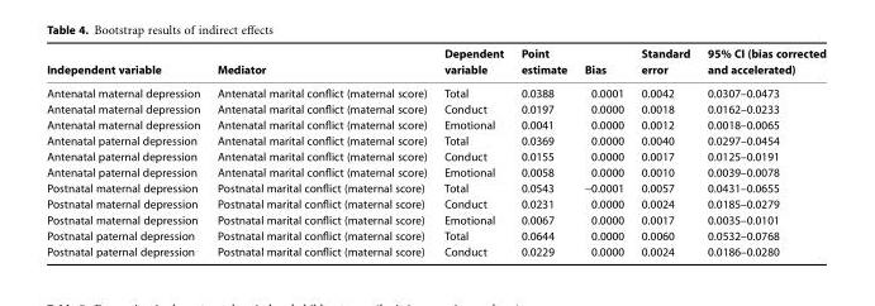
<table><thead><tr><td>Independent variable</td><td>Mediator</td><td>Dependent variable</td><td>Point estimate</td><td>Bias</td><td>Standard error</td><td>95% CI (bias corrected and accelerated)</td></tr></thead><tbody><tr><td>Antenatal maternal depression</td><td>Antenatal marital conflict (maternal score)</td><td>Total</td><td>0.0388</td><td>0.0001</td><td>0.0042</td><td>0.0307–0.0473</td></tr><tr><td>Antenatal maternal depression</td><td>Antenatal marital conflict (maternal score)</td><td>Conduct</td><td>0.0197</td><td>0.0000</td><td>0.0018</td><td>0.0162–0.0233</td></tr><tr><td>Antenatal maternal depression</td><td>Antenatal marital conflict (maternal score)</td><td>Emotional</td><td>0.0041</td><td>0.0000</td><td>0.0012</td><td>0.0018–0.0065</td></tr><tr><td>Antenatal paternal depression</td><td>Antenatal marital conflict (maternal score)</td><td>Total</td><td>0.0369</td><td>0.0000</td><td>0.0040</td><td>0.0297–0.0454</td></tr><tr><td>Antenatal paternal depression</td><td>Antenatal marital conflict (maternal score)</td><td>Conduct</td><td>0.0155</td><td>0.0000</td><td>0.0017</td><td>0.0125–0.0191</td></tr><tr><td>Antenatal paternal depression</td><td>Antenatal marital conflict (maternal score)</td><td>Emotional</td><td>0.0058</td><td>0.0000</td><td>0.0010</td><td>0.0039–0.0078</td></tr><tr><td>Postnatal maternal depression</td><td>Postnatal marital conflict (maternal score)</td><td>Total</td><td>0.0543</td><td>-0.0001</td><td>0.0057</td><td>0.0431–0.0655</td></tr><tr><td>Postnatal maternal depression</td><td>Postnatal marital conflict (maternal score)</td><td>Conduct</td><td>0.0231</td><td>0.0000</td><td>0.0024</td><td>0.0185–0.0279</td></tr><tr><td>Postnatal maternal depression</td><td>Postnatal marital conflict (maternal score)</td><td>Emotional</td><td>0.0067</td><td>0.0000</td><td>0.0017</td><td>0.0035–0.0101</td></tr><tr><td>Postnatal paternal depression</td><td>Postnatal marital conflict (maternal score)</td><td>Total</td><td>0.0644</td><td>0.0000</td><td>0.0060</td><td>0.0532–0.0768</td></tr><tr><td>Postnatal paternal depression</td><td>Postnatal marital conflict (maternal score)</td><td>Conduct</td><td>0.0229</td><td>0.0000</td><td>0.0024</td><td>0.0186–0.0280</td></tr></tbody></table>